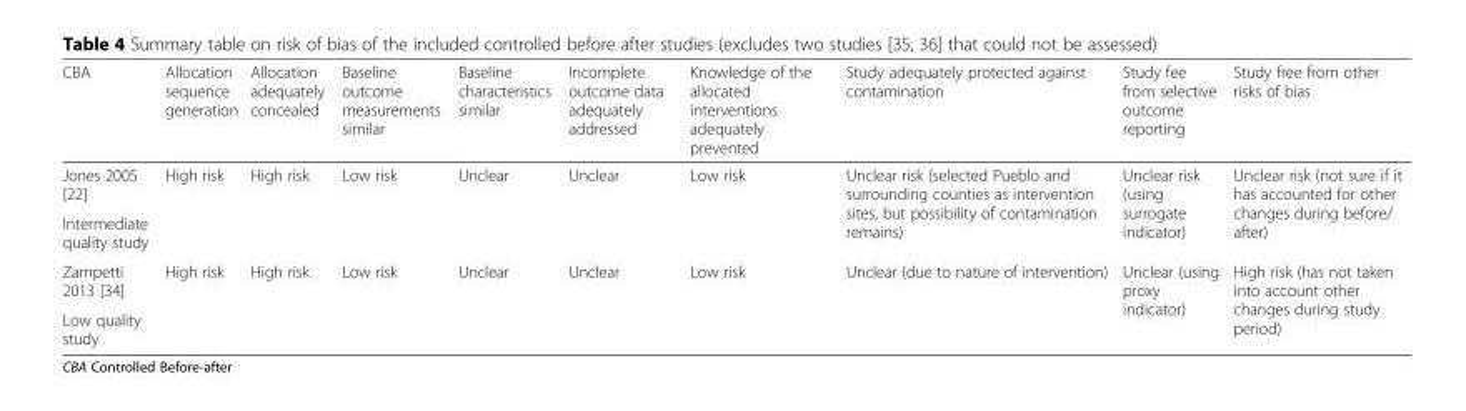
<table><thead><tr><td>CBA</td><td>Allocation sequence generation</td><td>Allocation adequately concealed</td><td>Baseline outcome measurements similar</td><td>Baseline characteristics similar</td><td>Incomplete outcome data adequately addressed</td><td>Knowledge of the allocated interventions adequately prevented</td><td>Study adequately protected against contamination</td><td>Study fee from selective outcome reporting</td><td>Study free from other risks of bias</td></tr></thead><tbody><tr><td>Jones 2005 [22]</td><td rowspan="2">High risk</td><td rowspan="2">High risk</td><td rowspan="2">Low risk</td><td rowspan="2">Unclear</td><td rowspan="2">Unclear</td><td rowspan="2">Low risk</td><td rowspan="2">Unclear risk (selected Pueblo and surrounding counties as intervention sites, but possibility of contamination remains)</td><td rowspan="2">Unclear risk (using surrogate indicator)</td><td rowspan="2">Unclear risk (not sure if it has accounted for other changes during before/ after)</td></tr><tr><td>Intermediate quality study</td></tr><tr><td>Zampetti 2013 [34]</td><td rowspan="2">High risk</td><td rowspan="2">High risk</td><td rowspan="2">Low risk</td><td rowspan="2">Unclear</td><td rowspan="2">Unclear</td><td rowspan="2">Low risk</td><td rowspan="2">Unclear (due to nature of intervention)</td><td rowspan="2">Unclear (using proxy indicator)</td><td rowspan="2">High risk (has not taken into account other changes during study period)</td></tr><tr><td>Low quality study</td></tr></tbody></table>